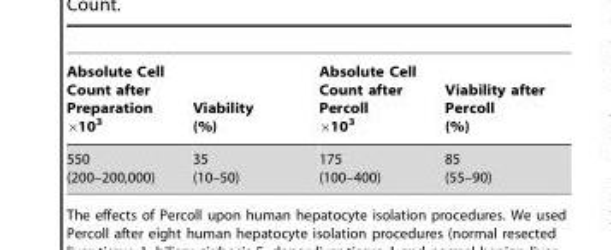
<table><thead><tr><td>Absolute Cell Count after Preparation ×10<sup>3</sup></td><td>Viability (%)</td><td>Absolute Cell Count after Percoll ×10<sup>3</sup></td><td>Viability after Percoll (%)</td></tr></thead><tbody><tr><td>550 (200–200,000)</td><td>35 (10–50)</td><td>175 (100–400)</td><td>85 (55–90)</td></tr></tbody></table>